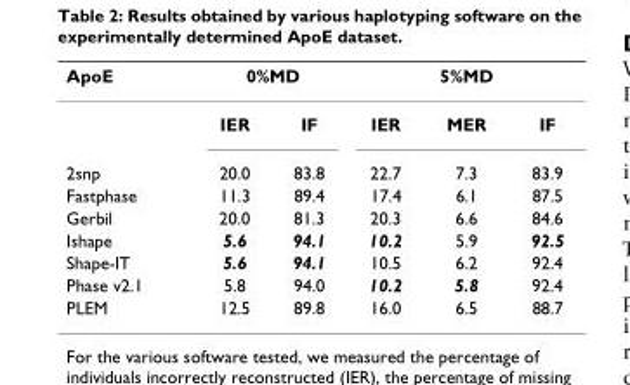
<table><thead><tr><td rowspan="2">ApoE</td><td colspan="2">0%MD</td><td colspan="3">5%MD</td></tr><tr><td>IER</td><td>IF</td><td>IER</td><td>MER</td><td>IF</td></tr></thead><tbody><tr><td>2snp</td><td>20.0</td><td>83.8</td><td>22.7</td><td>7.3</td><td>83.9</td></tr><tr><td>Fastphase</td><td>11.3</td><td>89.4</td><td>17.4</td><td>6.1</td><td>87.5</td></tr><tr><td>Gerbil</td><td>20.0</td><td>81.3</td><td>20.3</td><td>6.6</td><td>84.6</td></tr><tr><td>Ishape</td><td>5.6</td><td>94.1</td><td>10.2</td><td>5.9</td><td>92.5</td></tr><tr><td>Shape-IT</td><td>5.6</td><td>94.1</td><td>10.5</td><td>6.2</td><td>92.4</td></tr><tr><td>Phase v2.1</td><td>5.8</td><td>94.0</td><td>10.2</td><td>5.8</td><td>92.4</td></tr><tr><td>PLEM</td><td>12.5</td><td>89.8</td><td>16.0</td><td>6.5</td><td>88.7</td></tr></tbody></table>